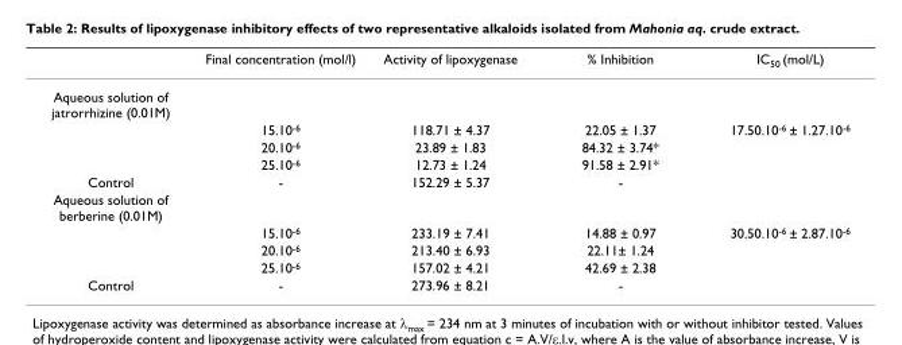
<table><thead><tr><td></td><td>Final concentration (mol/l)</td><td>Activity of lipoxygenase</td><td>% Inhibition</td><td>IC<sub>50</sub> (mol/L)</td></tr></thead><tbody><tr><td colspan="5">Aqueous solution of jatrorrhizine (0.01M)</td></tr><tr><td></td><td>15.10<sup>-6</sup></td><td>118.71 ± 4.37</td><td>22.05 ± 1.37</td><td>17.50.10<sup>-6</sup> ± 1.27.10<sup>-6</sup></td></tr><tr><td></td><td>20.10<sup>-6</sup></td><td>23.89 ± 1.83</td><td>84.32 ± 3.74*</td><td></td></tr><tr><td></td><td>25.10<sup>-6</sup></td><td>12.73 ± 1.24</td><td>91.58 ± 2.91*</td><td></td></tr><tr><td>Control</td><td>-</td><td>152.29 ± 5.37</td><td>-</td><td></td></tr><tr><td colspan="5">Aqueous solution of berberine (0.01M)</td></tr><tr><td></td><td>15.10<sup>-6</sup></td><td>233.19 ± 7.41</td><td>14.88 ± 0.97</td><td>30.50.10<sup>-6</sup> ± 2.87.10<sup>-6</sup></td></tr><tr><td></td><td>20.10<sup>-6</sup></td><td>213.40 ± 6.93</td><td>22.11± 1.24</td><td></td></tr><tr><td></td><td>25.10<sup>-6</sup></td><td>157.02 ± 4.21</td><td>42.69 ± 2.38</td><td></td></tr><tr><td>Control</td><td>-</td><td>273.96 ± 8.21</td><td>-</td><td></td></tr></tbody></table>